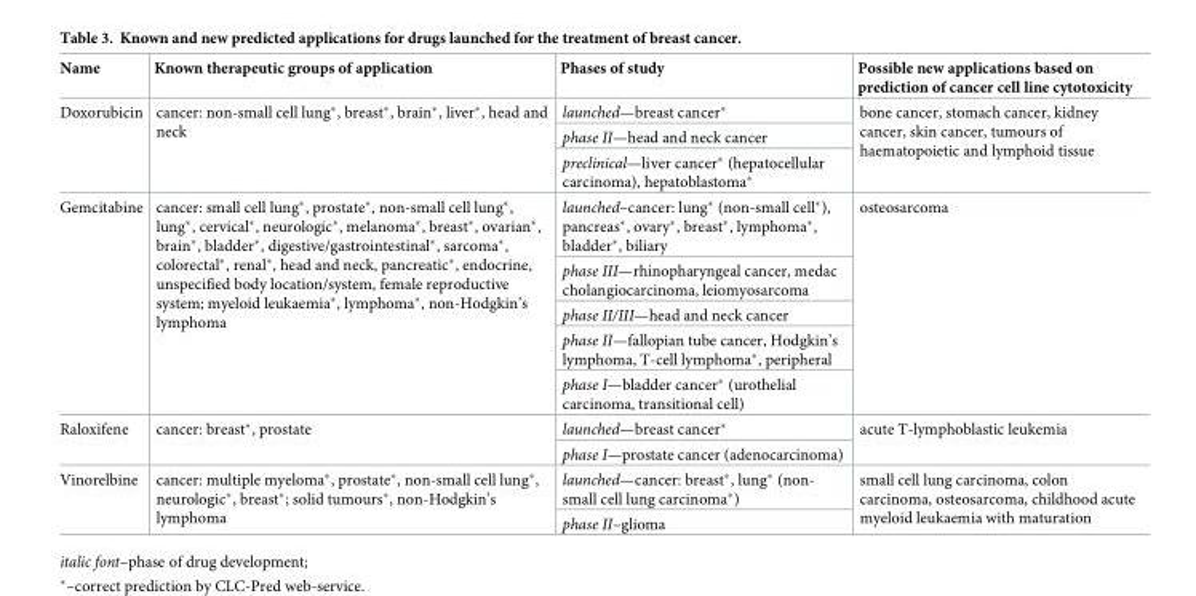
<table><thead><tr><td>Name</td><td>Known therapeutic groups of application</td><td>Phases of study</td><td>Possible new applications based on prediction of cancer cell line cytotoxicity</td></tr></thead><tbody><tr><td rowspan="3">Doxorubicin</td><td rowspan="3">cancer: non-small cell lung*, breast*, brain*, liver*, head and neck</td><td>launched—breast cancer*</td><td rowspan="3">bone cancer, stomach cancer, kidney cancer, skin cancer, tumours of haematopoietic and lymphoid tissue</td></tr><tr><td>phase II—head and neck cancer</td></tr><tr><td>preclinical—liver cancer* (hepatocellular carcinoma), hepatoblastoma*</td></tr><tr><td rowspan="5">Gemcitabine</td><td rowspan="5">cancer: small cell lung*, prostate*, non-small cell lung*, lung*, cervical*, neurologic*, melanoma*, breast*, ovarian*, brain*, bladder*, digestive/gastrointestinal*, sarcoma*, colorectal*, renal*, head and neck, pancreatic*, endocrine, unspecified body location/system, female reproductive system; myeloid leukaemia*, lymphoma*, non-Hodgkin’s lymphoma</td><td>launched–cancer: lung* (non-small cell*), pancreas*, ovary*, breast*, lymphoma*, bladder*, biliary</td><td rowspan="5">osteosarcoma</td></tr><tr><td>phase III—rhinopharyngeal cancer, medac cholangiocarcinoma, leiomyosarcoma</td></tr><tr><td>phase II/III—head and neck cancer</td></tr><tr><td>phase II—fallopian tube cancer, Hodgkin’s lymphoma, T-cell lymphoma*, peripheral</td></tr><tr><td>phase I—bladder cancer* (urothelial carcinoma, transitional cell)</td></tr><tr><td rowspan="2">Raloxifene</td><td rowspan="2">cancer: breast*, prostate</td><td>launched—breast cancer*</td><td rowspan="2">acute T-lymphoblastic leukemia</td></tr><tr><td>phase I—prostate cancer (adenocarcinoma)</td></tr><tr><td rowspan="2">Vinorelbine</td><td rowspan="2">cancer: multiple myeloma*, prostate*, non-small cell lung*, neurologic*, breast*; solid tumours*, non-Hodgkin’s lymphoma</td><td>launched—cancer: breast*, lung* (non- small cell lung carcinoma*)</td><td rowspan="2">small cell lung carcinoma, colon carcinoma, osteosarcoma, childhood acute myeloid leukaemia with maturation</td></tr><tr><td>phase II–glioma</td></tr></tbody></table>